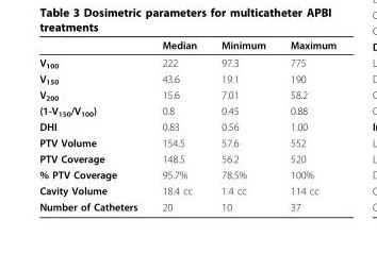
<table><thead><tr><td></td><td>Median</td><td>Minimum</td><td>Maximum</td></tr></thead><tbody><tr><td>V<sub>100</sub></td><td>222</td><td>97.3</td><td>775</td></tr><tr><td>V<sub>150</sub></td><td>43.6</td><td>19.1</td><td>190</td></tr><tr><td>V<sub>200</sub></td><td>15.6</td><td>7.01</td><td>58.2</td></tr><tr><td>(1-V<sub>150</sub>/V<sub>100</sub>)</td><td>0.8</td><td>0.45</td><td>0.88</td></tr><tr><td>DHI</td><td>0.83</td><td>0.56</td><td>1.00</td></tr><tr><td>PTV Volume</td><td>154.5</td><td>57.6</td><td>552</td></tr><tr><td>PTV Coverage</td><td>148.5</td><td>56.2</td><td>520</td></tr><tr><td>% PTV Coverage</td><td>95.7%</td><td>78.5%</td><td>100%</td></tr><tr><td>Cavity Volume</td><td>18.4 cc</td><td>1.4 cc</td><td>114 cc</td></tr><tr><td>Number of Catheters</td><td>20</td><td>10</td><td>37</td></tr></tbody></table>